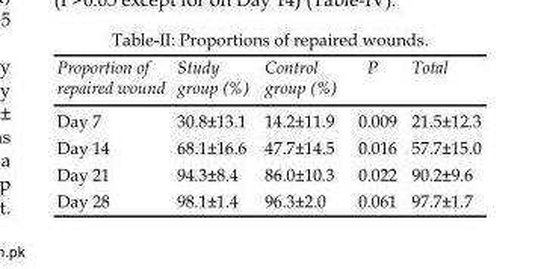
<table><thead><tr><td>Proportion of repaired wound</td><td>Study group (%)</td><td>Control group (%)</td><td>P</td><td>Total</td></tr></thead><tbody><tr><td>Day 7</td><td>30.8±13.1</td><td>14.2±11.9</td><td>0.009</td><td>21.5±12.3</td></tr><tr><td>Day 14</td><td>68.1±16.6</td><td>47.7±14.5</td><td>0.016</td><td>57.7±15.0</td></tr><tr><td>Day 21</td><td>94.3±8.4</td><td>86.0±10.3</td><td>0.022</td><td>90.2±9.6</td></tr><tr><td>Day 28</td><td>98.1±1.4</td><td>96.3±2.0</td><td>0.061</td><td>97.7±1.7</td></tr></tbody></table>